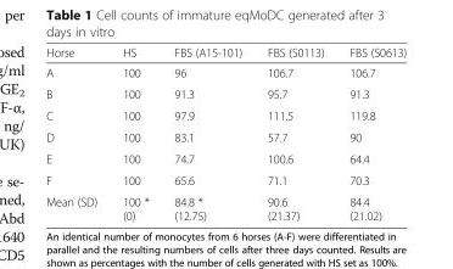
<table><thead><tr><td>Horse</td><td>HS</td><td>FBS (A15-101)</td><td>FBS (S0113)</td><td>FBS (S0613)</td></tr></thead><tbody><tr><td>A</td><td>100</td><td>96</td><td>106.7</td><td>106.7</td></tr><tr><td>B</td><td>100</td><td>91.3</td><td>95.7</td><td>91.3</td></tr><tr><td>C</td><td>100</td><td>97.9</td><td>111.5</td><td>119.8</td></tr><tr><td>D</td><td>100</td><td>83.1</td><td>57.7</td><td>90</td></tr><tr><td>E</td><td>100</td><td>74.7</td><td>100.6</td><td>64.4</td></tr><tr><td>F</td><td>100</td><td>65.6</td><td>71.1</td><td>70.3</td></tr><tr><td>Mean (SD)</td><td>100 * (0)</td><td>84.8 * (12.75)</td><td>90.6 (21.37)</td><td>84.4 (21.02)</td></tr></tbody></table>